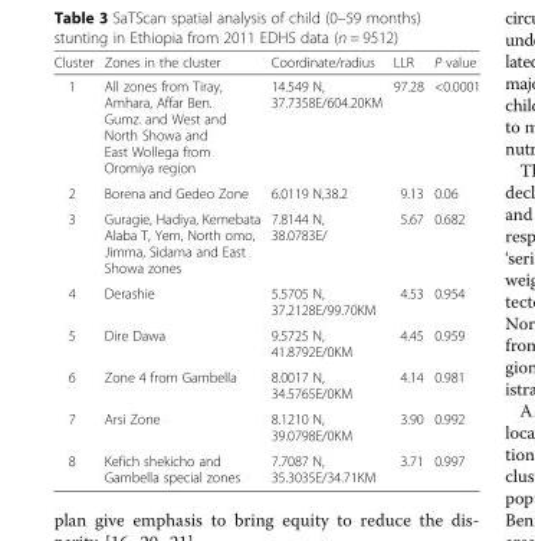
<table><thead><tr><td>Cluster</td><td>Zones in the cluster</td><td>Coordinate/radius</td><td>LLR</td><td>P value</td></tr></thead><tbody><tr><td>1</td><td>All zones from Tiray, Amhara, Affar Ben. Gumz. and West and North Showa and East Wollega from Oromiya region</td><td>14.549 N, 37.7358E/604.20KM</td><td>97.28</td><td>&lt;0.0001</td></tr><tr><td>2</td><td>Borena and Gedeo Zone</td><td>6.0119 N,38.2</td><td>9.13</td><td>0.06</td></tr><tr><td>3</td><td>Guragie, Hadiya, Kemebata Alaba T, Yem, North omo, Jimma, Sidama and East Showa zones</td><td>7.8144 N, 38.0783E/</td><td>5.67</td><td>0.682</td></tr><tr><td>4</td><td>Derashie</td><td>5.5705 N, 37.2128E/99.70KM</td><td>4.53</td><td>0.954</td></tr><tr><td>5</td><td>Dire Dawa</td><td>9.5725 N, 41.8792E/0KM</td><td>4.45</td><td>0.959</td></tr><tr><td>6</td><td>Zone 4 from Gambella</td><td>8.0017 N, 34.5765E/0KM</td><td>4.14</td><td>0.981</td></tr><tr><td>7</td><td>Arsi Zone</td><td>8.1210 N, 39.0798E/0KM</td><td>3.90</td><td>0.992</td></tr><tr><td>8</td><td>Kefich shekicho and Gambella special zones</td><td>7.7087 N, 35.3035E/34.71KM</td><td>3.71</td><td>0.997</td></tr></tbody></table>